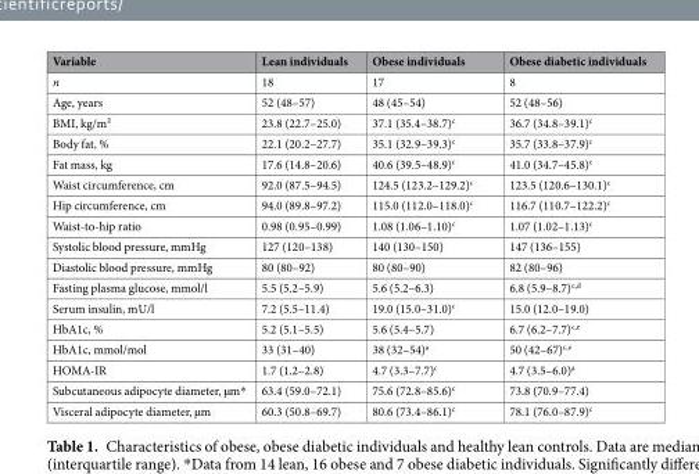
<table><thead><tr><td>Variable</td><td>Lean individuals</td><td>Obese individuals</td><td>Obese diabetic individuals</td></tr></thead><tbody><tr><td>n</td><td>18</td><td>17</td><td>8</td></tr><tr><td>Age, years</td><td>52 (48–57)</td><td>48 (45–54)</td><td>52 (48–56)</td></tr><tr><td>BMI, kg/m²</td><td>23.8 (22.7–25.0)</td><td>37.1 (35.4–38.7)<sup>c</sup></td><td>36.7 (34.8–39.1)<sup>c</sup></td></tr><tr><td>Body fat, %</td><td>22.1 (20.2–27.7)</td><td>35.1 (32.9–39.3)<sup>c</sup></td><td>35.7 (33.8–37.9)<sup>c</sup></td></tr><tr><td>Fat mass, kg</td><td>17.6 (14.8–20.6)</td><td>40.6 (39.5–48.9)<sup>c</sup></td><td>41.0 (34.7–45.8)<sup>c</sup></td></tr><tr><td>Waist circumference, cm</td><td>92.0 (87.5–94.5)</td><td>124.5 (123.2–129.2)<sup>c</sup></td><td>123.5 (120.6–130.1)<sup>c</sup></td></tr><tr><td>Hip circumference, cm</td><td>94.0 (89.8–97.2)</td><td>115.0 (112.0–118.0)<sup>c</sup></td><td>116.7 (110.7–122.2)<sup>c</sup></td></tr><tr><td>Waist-to-hip ratio</td><td>0.98 (0.95–0.99)</td><td>1.08 (1.06–1.10)<sup>c</sup></td><td>1.07 (1.02–1.13)<sup>c</sup></td></tr><tr><td>Systolic blood pressure, mmHg</td><td>127 (120–138)</td><td>140 (130–150)</td><td>147 (136–155)</td></tr><tr><td>Diastolic blood pressure, mmHg</td><td>80 (80–92)</td><td>80 (80–90)</td><td>82 (80–96)</td></tr><tr><td>Fasting plasma glucose, mmol/l</td><td>5.5 (5.2–5.9)</td><td>5.6 (5.2–6.3)</td><td>6.8 (5.9–8.7)<sup>c,d</sup></td></tr><tr><td>Serum insulin, mU/l</td><td>7.2 (5.5–11.4)</td><td>19.0 (15.0–31.0)<sup>c</sup></td><td>15.0 (12.0–19.0)</td></tr><tr><td>HbA1c, %</td><td>5.2 (5.1–5.5)</td><td>5.6 (5.4–5.7)</td><td>6.7 (6.2–7.7)<sup>c,e</sup></td></tr><tr><td>HbA1c, mmol/mol</td><td>33 (31–40)</td><td>38 (32–54)<sup>a</sup></td><td>50 (42–67)<sup>c,e</sup></td></tr><tr><td>HOMA-IR</td><td>1.7 (1.2–2.8)</td><td>4.7 (3.3–7.7)<sup>c</sup></td><td>4.7 (3.5–6.0)<sup>a</sup></td></tr><tr><td>Subcutaneous adipocyte diameter, µm*</td><td>63.4 (59.0–72.1)</td><td>75.6 (72.8–85.6)<sup>c</sup></td><td>73.8 (70.9–77.4)</td></tr><tr><td>Visceral adipocyte diameter, µm</td><td>60.3 (50.8–69.7)</td><td>80.6 (73.4–86.1)<sup>c</sup></td><td>78.1 (76.0–87.9)<sup>c</sup></td></tr></tbody></table>